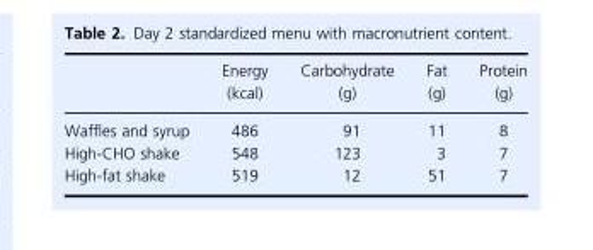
<table><thead><tr><td></td><td>Energy (kcal)</td><td>Carbohydrate (g)</td><td>Fat (g)</td><td>Protein (g)</td></tr></thead><tbody><tr><td>Waffles and syrup</td><td>486</td><td>91</td><td>11</td><td>8</td></tr><tr><td>High-CHO shake</td><td>548</td><td>123</td><td>3</td><td>7</td></tr><tr><td>High-fat shake</td><td>519</td><td>12</td><td>51</td><td>7</td></tr></tbody></table>